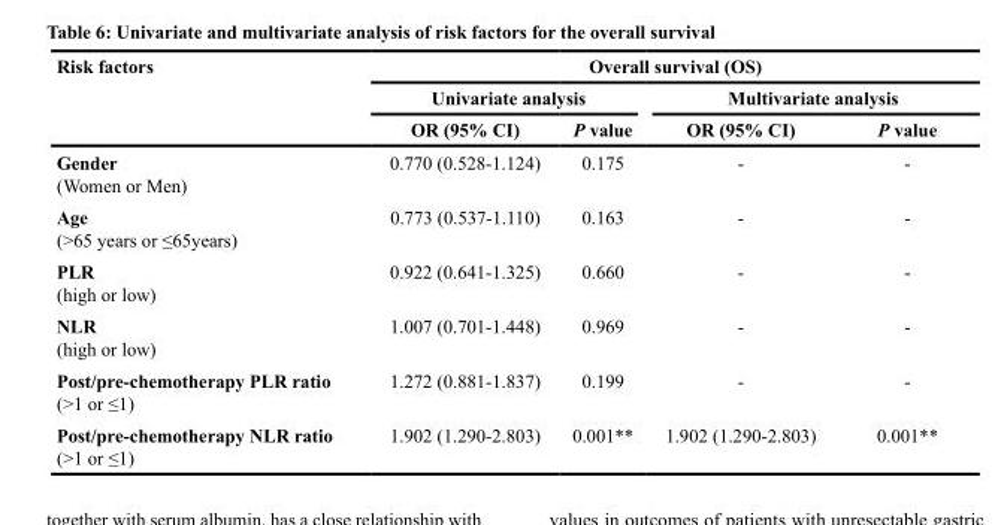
<table><thead><tr><td rowspan="3">Risk factors</td><td colspan="4">Overall survival (OS)</td></tr><tr><td colspan="2">Univariate analysis</td><td colspan="2">Multivariate analysis</td></tr><tr><td>OR (95% CI)</td><td>P value</td><td>OR (95% CI)</td><td>P value</td></tr></thead><tbody><tr><td>Gender (Women or Men)</td><td>0.770 (0.528-1.124)</td><td>0.175</td><td>-</td><td>-</td></tr><tr><td>Age (&gt;65 years or ≤65years)</td><td>0.773 (0.537-1.110)</td><td>0.163</td><td>-</td><td>-</td></tr><tr><td>PLR (high or low)</td><td>0.922 (0.641-1.325)</td><td>0.660</td><td>-</td><td>-</td></tr><tr><td>NLR (high or low)</td><td>1.007 (0.701-1.448)</td><td>0.969</td><td>-</td><td>-</td></tr><tr><td>Post/pre-chemotherapy PLR ratio (&gt;1 or ≤1)</td><td>1.272 (0.881-1.837)</td><td>0.199</td><td>-</td><td>-</td></tr><tr><td>Post/pre-chemotherapy NLR ratio (&gt;1 or ≤1)</td><td>1.902 (1.290-2.803)</td><td>0.001**</td><td>1.902 (1.290-2.803)</td><td>0.001**</td></tr></tbody></table>